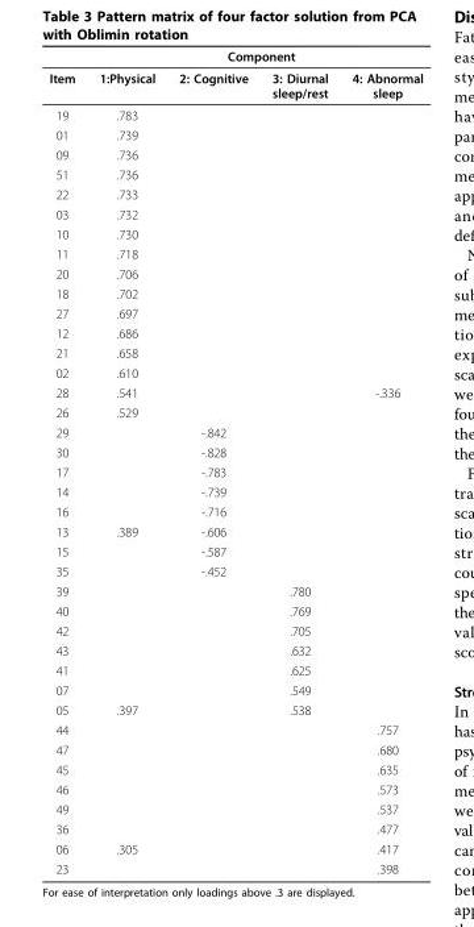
<table><thead><tr><td rowspan="2">Item</td><td colspan="4">Component</td></tr><tr><td>1:Physical</td><td>2: Cognitive</td><td>3: Diurnal sleep/rest</td><td>4: Abnormal sleep</td></tr></thead><tbody><tr><td>19</td><td>.783</td><td></td><td></td><td></td></tr><tr><td>01</td><td>.739</td><td></td><td></td><td></td></tr><tr><td>09</td><td>.736</td><td></td><td></td><td></td></tr><tr><td>51</td><td>.736</td><td></td><td></td><td></td></tr><tr><td>22</td><td>.733</td><td></td><td></td><td></td></tr><tr><td>03</td><td>.732</td><td></td><td></td><td></td></tr><tr><td>10</td><td>.730</td><td></td><td></td><td></td></tr><tr><td>11</td><td>.718</td><td></td><td></td><td></td></tr><tr><td>20</td><td>.706</td><td></td><td></td><td></td></tr><tr><td>18</td><td>.702</td><td></td><td></td><td></td></tr><tr><td>27</td><td>.697</td><td></td><td></td><td></td></tr><tr><td>12</td><td>.686</td><td></td><td></td><td></td></tr><tr><td>21</td><td>.658</td><td></td><td></td><td></td></tr><tr><td>02</td><td>.610</td><td></td><td></td><td></td></tr><tr><td>28</td><td>.541</td><td></td><td></td><td>-.336</td></tr><tr><td>26</td><td>.529</td><td></td><td></td><td></td></tr><tr><td>29</td><td></td><td>-.842</td><td></td><td></td></tr><tr><td>30</td><td></td><td>-.828</td><td></td><td></td></tr><tr><td>17</td><td></td><td>-.783</td><td></td><td></td></tr><tr><td>14</td><td></td><td>-.739</td><td></td><td></td></tr><tr><td>16</td><td></td><td>-.716</td><td></td><td></td></tr><tr><td>13</td><td>.389</td><td>-.606</td><td></td><td></td></tr><tr><td>15</td><td></td><td>-.587</td><td></td><td></td></tr><tr><td>35</td><td></td><td>-.452</td><td></td><td></td></tr><tr><td>39</td><td></td><td></td><td>.780</td><td></td></tr><tr><td>40</td><td></td><td></td><td>.769</td><td></td></tr><tr><td>42</td><td></td><td></td><td>.705</td><td></td></tr><tr><td>43</td><td></td><td></td><td>.632</td><td></td></tr><tr><td>41</td><td></td><td></td><td>.625</td><td></td></tr><tr><td>07</td><td></td><td></td><td>.549</td><td></td></tr><tr><td>05</td><td>.397</td><td></td><td>.538</td><td></td></tr><tr><td>44</td><td></td><td></td><td></td><td>.757</td></tr><tr><td>47</td><td></td><td></td><td></td><td>.680</td></tr><tr><td>45</td><td></td><td></td><td></td><td>.635</td></tr><tr><td>46</td><td></td><td></td><td></td><td>.573</td></tr><tr><td>49</td><td></td><td></td><td></td><td>.537</td></tr><tr><td>36</td><td></td><td></td><td></td><td>.477</td></tr><tr><td>06</td><td>.305</td><td></td><td></td><td>.417</td></tr><tr><td>23</td><td></td><td></td><td></td><td>.398</td></tr></tbody></table>